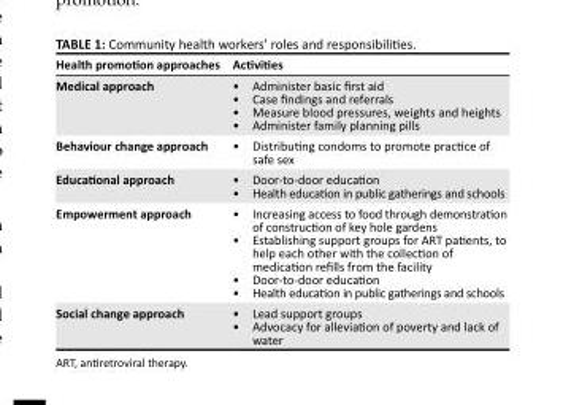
<table><thead><tr><td>Health promotion approaches</td><td>Activities</td></tr></thead><tbody><tr><td>Medical approach</td><td>• Administer basic first aid • Case findings and referrals • Measure blood pressures, weights and heights • Administer family planning pills</td></tr><tr><td>Behaviour change approach</td><td>• Distributing condoms to promote practice of safe sex</td></tr><tr><td>Educational approach</td><td>• Door-to-door education • Health education in public gatherings and schools</td></tr><tr><td>Empowerment approach</td><td>• Increasing access to food through demonstration of construction of key hole gardens • Establishing support groups for ART patients, to help each other with the collection of medication refills from the facility • Door-to-door education • Health education in public gatherings and schools</td></tr><tr><td>Social change approach</td><td>• Lead support groups • Advocacy for alleviation of poverty and lack of water</td></tr></tbody></table>